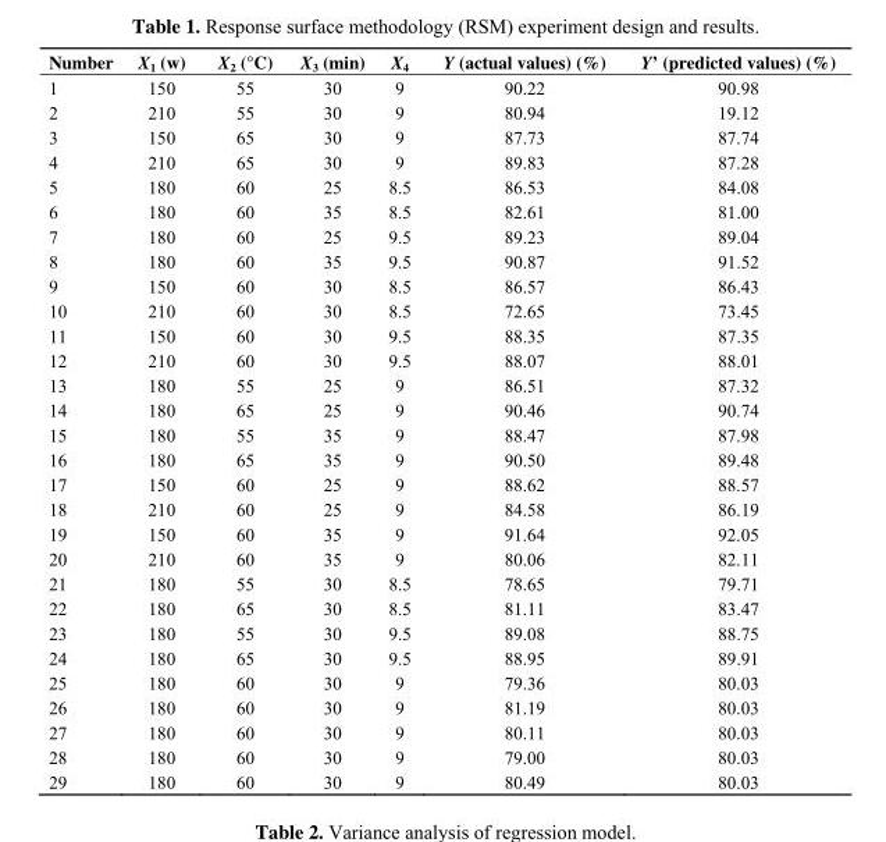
<table><thead><tr><td>Number</td><td>X<sub>1</sub> (w)</td><td>X<sub>2</sub> (°C)</td><td>X<sub>3</sub> (min)</td><td>X<sub>4</sub></td><td>Y (actual values) (%)</td><td>Y’ (predicted values) (%)</td></tr></thead><tbody><tr><td>1</td><td>150</td><td>55</td><td>30</td><td>9</td><td>90.22</td><td>90.98</td></tr><tr><td>2</td><td>210</td><td>55</td><td>30</td><td>9</td><td>80.94</td><td>19.12</td></tr><tr><td>3</td><td>150</td><td>65</td><td>30</td><td>9</td><td>87.73</td><td>87.74</td></tr><tr><td>4</td><td>210</td><td>65</td><td>30</td><td>9</td><td>89.83</td><td>87.28</td></tr><tr><td>5</td><td>180</td><td>60</td><td>25</td><td>8.5</td><td>86.53</td><td>84.08</td></tr><tr><td>6</td><td>180</td><td>60</td><td>35</td><td>8.5</td><td>82.61</td><td>81.00</td></tr><tr><td>7</td><td>180</td><td>60</td><td>25</td><td>9.5</td><td>89.23</td><td>89.04</td></tr><tr><td>8</td><td>180</td><td>60</td><td>35</td><td>9.5</td><td>90.87</td><td>91.52</td></tr><tr><td>9</td><td>150</td><td>60</td><td>30</td><td>8.5</td><td>86.57</td><td>86.43</td></tr><tr><td>10</td><td>210</td><td>60</td><td>30</td><td>8.5</td><td>72.65</td><td>73.45</td></tr><tr><td>11</td><td>150</td><td>60</td><td>30</td><td>9.5</td><td>88.35</td><td>87.35</td></tr><tr><td>12</td><td>210</td><td>60</td><td>30</td><td>9.5</td><td>88.07</td><td>88.01</td></tr><tr><td>13</td><td>180</td><td>55</td><td>25</td><td>9</td><td>86.51</td><td>87.32</td></tr><tr><td>14</td><td>180</td><td>65</td><td>25</td><td>9</td><td>90.46</td><td>90.74</td></tr><tr><td>15</td><td>180</td><td>55</td><td>35</td><td>9</td><td>88.47</td><td>87.98</td></tr><tr><td>16</td><td>180</td><td>65</td><td>35</td><td>9</td><td>90.50</td><td>89.48</td></tr><tr><td>17</td><td>150</td><td>60</td><td>25</td><td>9</td><td>88.62</td><td>88.57</td></tr><tr><td>18</td><td>210</td><td>60</td><td>25</td><td>9</td><td>84.58</td><td>86.19</td></tr><tr><td>19</td><td>150</td><td>60</td><td>35</td><td>9</td><td>91.64</td><td>92.05</td></tr><tr><td>20</td><td>210</td><td>60</td><td>35</td><td>9</td><td>80.06</td><td>82.11</td></tr><tr><td>21</td><td>180</td><td>55</td><td>30</td><td>8.5</td><td>78.65</td><td>79.71</td></tr><tr><td>22</td><td>180</td><td>65</td><td>30</td><td>8.5</td><td>81.11</td><td>83.47</td></tr><tr><td>23</td><td>180</td><td>55</td><td>30</td><td>9.5</td><td>89.08</td><td>88.75</td></tr><tr><td>24</td><td>180</td><td>65</td><td>30</td><td>9.5</td><td>88.95</td><td>89.91</td></tr><tr><td>25</td><td>180</td><td>60</td><td>30</td><td>9</td><td>79.36</td><td>80.03</td></tr><tr><td>26</td><td>180</td><td>60</td><td>30</td><td>9</td><td>81.19</td><td>80.03</td></tr><tr><td>27</td><td>180</td><td>60</td><td>30</td><td>9</td><td>80.11</td><td>80.03</td></tr><tr><td>28</td><td>180</td><td>60</td><td>30</td><td>9</td><td>79.00</td><td>80.03</td></tr><tr><td>29</td><td>180</td><td>60</td><td>30</td><td>9</td><td>80.49</td><td>80.03</td></tr></tbody></table>